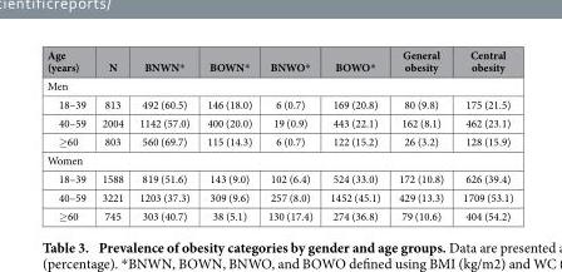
<table><thead><tr><td>Age (years)</td><td>N</td><td>BNWN*</td><td>BOWN*</td><td>BNWO*</td><td>BOWO*</td><td>General obesity</td><td>Central obesity</td></tr></thead><tbody><tr><td colspan="8">Men</td></tr><tr><td>18–39</td><td>813</td><td>492 (60.5)</td><td>146 (18.0)</td><td>6 (0.7)</td><td>169 (20.8)</td><td>80 (9.8)</td><td>175 (21.5)</td></tr><tr><td>40–59</td><td>2004</td><td>1142 (57.0)</td><td>400 (20.0)</td><td>19 (0.9)</td><td>443 (22.1)</td><td>162 (8.1)</td><td>462 (23.1)</td></tr><tr><td>≥ 60</td><td>803</td><td>560 (69.7)</td><td>115 (14.3)</td><td>6 (0.7)</td><td>122 (15.2)</td><td>26 (3.2)</td><td>128 (15.9)</td></tr><tr><td colspan="8">Women</td></tr><tr><td>18–39</td><td>1588</td><td>819 (51.6)</td><td>143 (9.0)</td><td>102 (6.4)</td><td>524 (33.0)</td><td>172 (10.8)</td><td>626 (39.4)</td></tr><tr><td>40–59</td><td>3221</td><td>1203 (37.3)</td><td>309 (9.6)</td><td>257 (8.0)</td><td>1452 (45.1)</td><td>429 (13.3)</td><td>1709 (53.1)</td></tr><tr><td>≥ 60</td><td>745</td><td>303 (40.7)</td><td>38 (5.1)</td><td>130 (17.4)</td><td>274 (36.8)</td><td>79 (10.6)</td><td>404 (54.2)</td></tr></tbody></table>